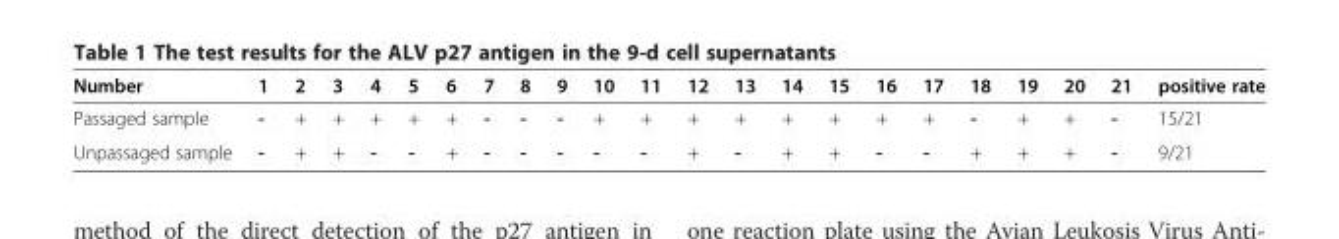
<table><thead><tr><td>Number</td><td>1</td><td>2</td><td>3</td><td>4</td><td>5</td><td>6</td><td>7</td><td>8</td><td>9</td><td>10</td><td>11</td><td>12</td><td>13</td><td>14</td><td>15</td><td>16</td><td>17</td><td>18</td><td>19</td><td>20</td><td>21</td><td>positive rate</td></tr></thead><tbody><tr><td>Passaged sample</td><td>-</td><td>+</td><td>+</td><td>+</td><td>+</td><td>+</td><td>-</td><td>-</td><td>-</td><td>+</td><td>+</td><td>+</td><td>+</td><td>+</td><td>+</td><td>+</td><td>+</td><td>-</td><td>+</td><td>+</td><td>-</td><td>15/21</td></tr><tr><td>Unpassaged sample</td><td>-</td><td>+</td><td>+</td><td>-</td><td>-</td><td>+</td><td>-</td><td>-</td><td>-</td><td>-</td><td>-</td><td>+</td><td>-</td><td>+</td><td>+</td><td>-</td><td>-</td><td>+</td><td>+</td><td>+</td><td>-</td><td>9/21</td></tr></tbody></table>